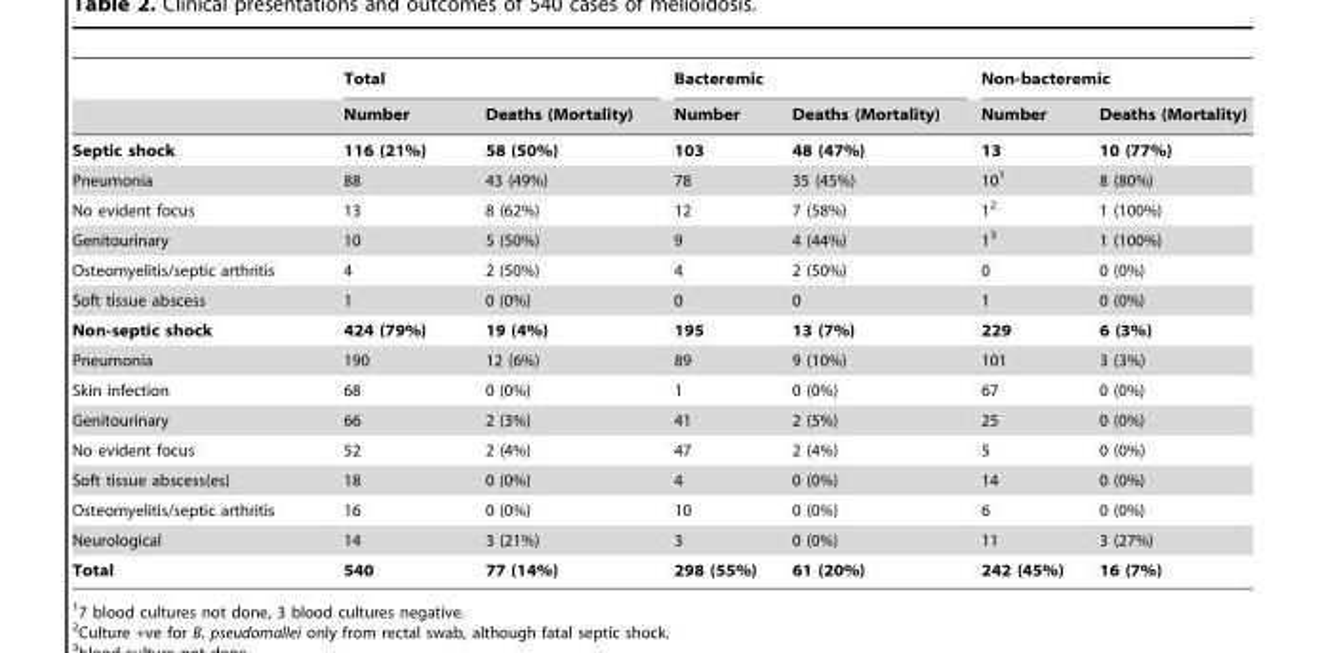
<table><thead><tr><td rowspan="2"></td><td colspan="2">Total</td><td colspan="2">Bacteremic</td><td colspan="2">Non-bacteremic</td></tr><tr><td>Number</td><td>Deaths (Mortality)</td><td>Number</td><td>Deaths (Mortality)</td><td>Number</td><td>Deaths (Mortality)</td></tr></thead><tbody><tr><td>Septic shock</td><td>116 (21%)</td><td>58 (50%)</td><td>103</td><td>48 (47%)</td><td>13</td><td>10 (77%)</td></tr><tr><td>Pneumonia</td><td>88</td><td>43 (49%)</td><td>78</td><td>35 (45%)</td><td>10<sup>1</sup></td><td>8 (80%)</td></tr><tr><td>No evident focus</td><td>13</td><td>8 (62%)</td><td>12</td><td>7 (58%)</td><td>1<sup>2</sup></td><td>1 (100%)</td></tr><tr><td>Genitourinary</td><td>10</td><td>5 (50%)</td><td>9</td><td>4 (44%)</td><td>1<sup>3</sup></td><td>1 (100%)</td></tr><tr><td>Osteomyelitis/septic arthritis</td><td>4</td><td>2 (50%)</td><td>4</td><td>2 (50%)</td><td>0</td><td>0 (0%)</td></tr><tr><td>Soft tissue abscess</td><td>1</td><td>0 (0%)</td><td>0</td><td>0</td><td>1</td><td>0 (0%)</td></tr><tr><td>Non-septic shock</td><td>424 (79%)</td><td>19 (4%)</td><td>195</td><td>13 (7%)</td><td>229</td><td>6 (3%)</td></tr><tr><td>Pneumonia</td><td>190</td><td>12 (6%)</td><td>89</td><td>9 (10%)</td><td>101</td><td>3 (3%)</td></tr><tr><td>Skin infection</td><td>68</td><td>0 (0%)</td><td>1</td><td>0 (0%)</td><td>67</td><td>0 (0%)</td></tr><tr><td>Genitourinary</td><td>66</td><td>2 (3%)</td><td>41</td><td>2 (5%)</td><td>25</td><td>0 (0%)</td></tr><tr><td>No evident focus</td><td>52</td><td>2 (4%)</td><td>47</td><td>2 (4%)</td><td>5</td><td>0 (0%)</td></tr><tr><td>Soft tissue abscess(es)</td><td>18</td><td>0 (0%)</td><td>4</td><td>0 (0%)</td><td>14</td><td>0 (0%)</td></tr><tr><td>Osteomyelitis/septic arthritis</td><td>16</td><td>0 (0%)</td><td>10</td><td>0 (0%)</td><td>6</td><td>0 (0%)</td></tr><tr><td>Neurological</td><td>14</td><td>3 (21%)</td><td>3</td><td>0 (0%)</td><td>11</td><td>3 (27%)</td></tr><tr><td>Total</td><td>540</td><td>77 (14%)</td><td>298 (55%)</td><td>61 (20%)</td><td>242 (45%)</td><td>16 (7%)</td></tr></tbody></table>